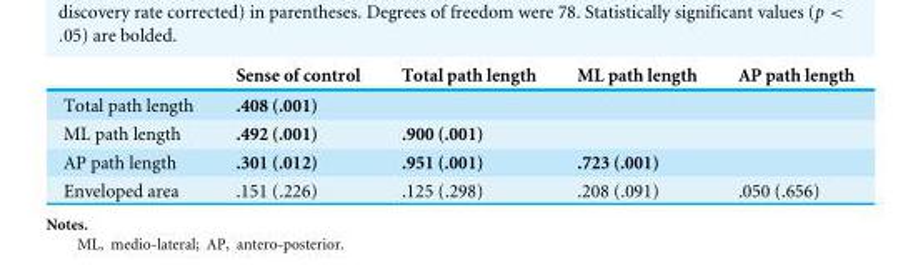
<table><thead><tr><td></td><td>Sense of control</td><td>Total path length</td><td>ML path length</td><td>AP path length</td></tr></thead><tbody><tr><td>Total path length</td><td>.408 (.001)</td><td></td><td></td><td></td></tr><tr><td>ML path length</td><td>.492 (.001)</td><td>.900 (.001)</td><td></td><td></td></tr><tr><td>AP path length</td><td>.301 (.012)</td><td>.951 (.001)</td><td>.723 (.001)</td><td></td></tr><tr><td>Enveloped area</td><td>.151 (.226)</td><td>.125 (.298)</td><td>.208 (.091)</td><td>.050 (.656)</td></tr></tbody></table>